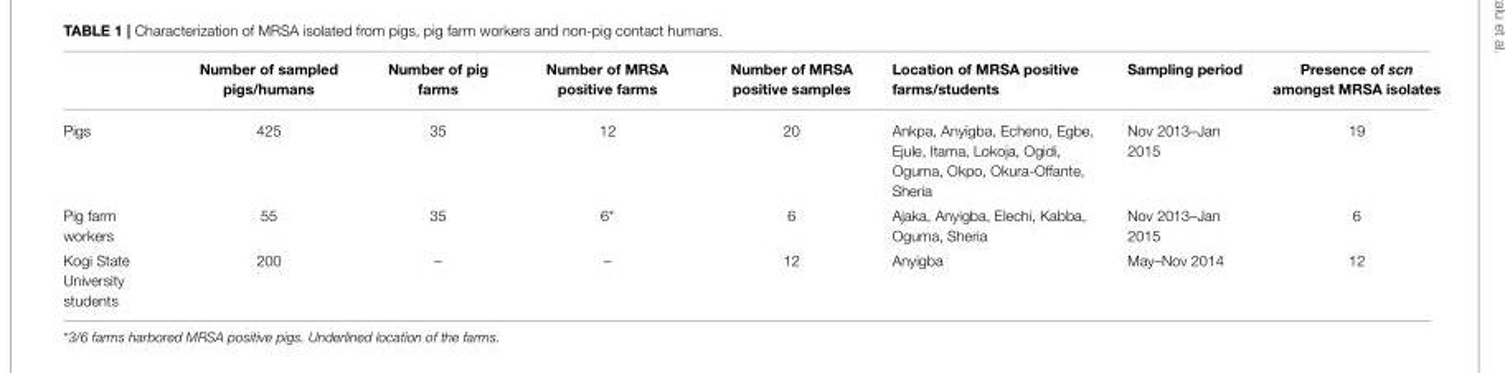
<table><thead><tr><td></td><td>Number of sampled pigs/humans</td><td>Number of pig farms</td><td>Number of MRSA positive farms</td><td>Number of MRSA positive samples</td><td>Location of MRSA positive farms/students</td><td>Sampling period</td><td>Presence of scn amongst MRSA isolates</td></tr></thead><tbody><tr><td>Pigs</td><td>425</td><td>35</td><td>12</td><td>20</td><td>Ankpa, Anyigba, Echeno, Egbe, Ejule, Itama, Lokoja, Ogidi, Oguma, Okpo, Okura-Offante, Sheria</td><td>Nov 2013–Jan 2015</td><td>19</td></tr><tr><td>Pig farm workers</td><td>55</td><td>35</td><td>6*</td><td>6</td><td>Ajaka, Anyigba, Elechi, Kabba, Oguma, Sheria</td><td>Nov 2013–Jan 2015</td><td>6</td></tr><tr><td>Kogi State University students</td><td>200</td><td>–</td><td>–</td><td>12</td><td>Anyigba</td><td>May–Nov 2014</td><td>12</td></tr></tbody></table>